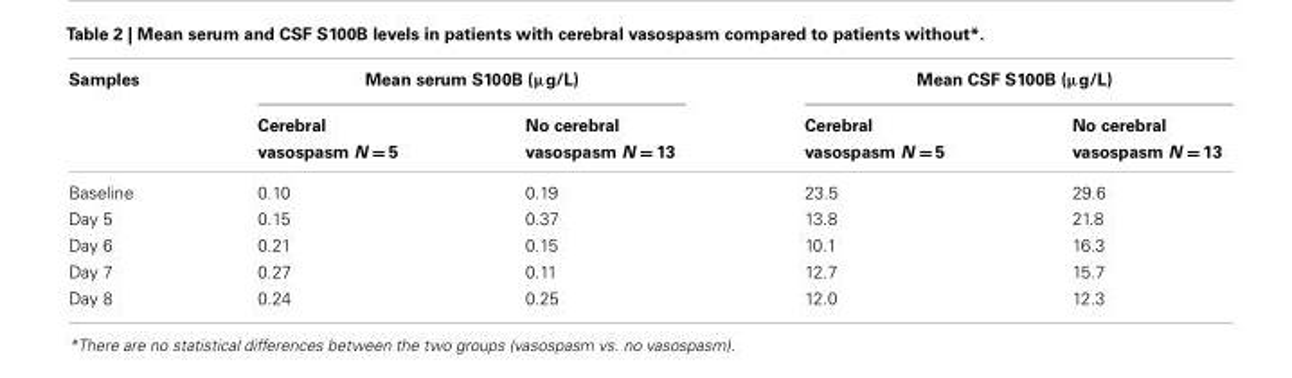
<table><thead><tr><td rowspan="2">Samples</td><td colspan="2">Mean serum S100B (µg/L)</td><td colspan="2">Mean CSF S100B (µg/L)</td></tr><tr><td>Cerebral vasospasm N = 5</td><td>No cerebral vasospasm N = 13</td><td>Cerebral vasospasm N = 5</td><td>No cerebral vasospasm N = 13</td></tr></thead><tbody><tr><td>Baseline</td><td>0.10</td><td>0.19</td><td>23.5</td><td>29.6</td></tr><tr><td>Day 5</td><td>0.15</td><td>0.37</td><td>13.8</td><td>21.8</td></tr><tr><td>Day 6</td><td>0.21</td><td>0.15</td><td>10.1</td><td>16.3</td></tr><tr><td>Day 7</td><td>0.27</td><td>0.11</td><td>12.7</td><td>15.7</td></tr><tr><td>Day 8</td><td>0.24</td><td>0.25</td><td>12.0</td><td>12.3</td></tr></tbody></table>